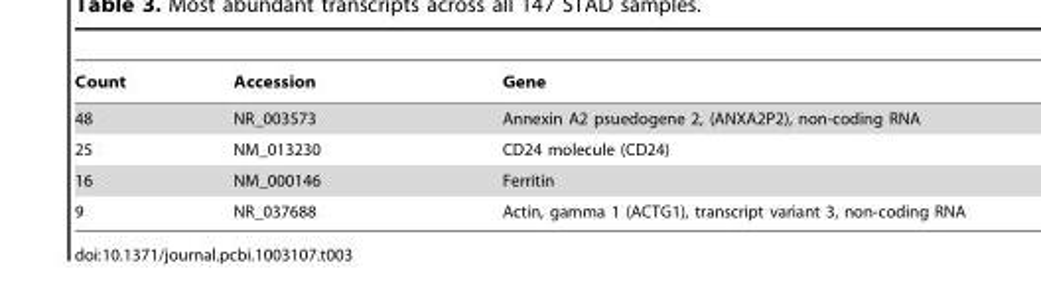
<table><thead><tr><td>Count</td><td>Accession</td><td>Gene</td></tr></thead><tbody><tr><td>48</td><td>NR_003573</td><td>Annexin A2 psuedogene 2, (ANXA2P2), non-coding RNA</td></tr><tr><td>25</td><td>NM_013230</td><td>CD24 molecule (CD24)</td></tr><tr><td>16</td><td>NM_000146</td><td>Ferritin</td></tr><tr><td>9</td><td>NR_037688</td><td>Actin, gamma 1 (ACTG1), transcript variant 3, non-coding RNA</td></tr></tbody></table>